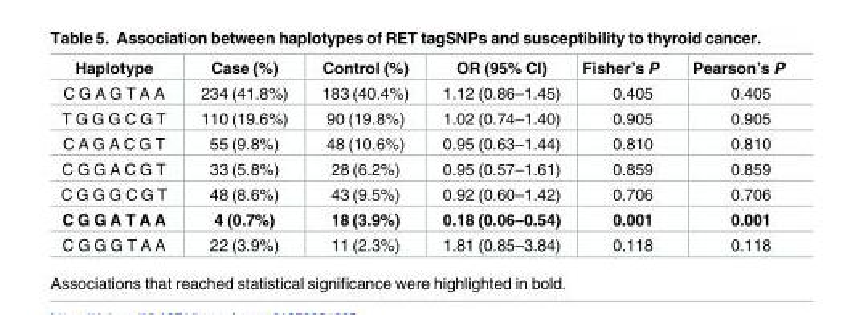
<table><thead><tr><td>Haplotype</td><td>Case (%)</td><td>Control (%)</td><td>OR (95% CI)</td><td>Fisher’s P</td><td>Pearson’s P</td></tr></thead><tbody><tr><td>C G A G T A A</td><td>234 (41.8%)</td><td>183 (40.4%)</td><td>1.12 (0.86–1.45)</td><td>0.405</td><td>0.405</td></tr><tr><td>T G G G C G T</td><td>110 (19.6%)</td><td>90 (19.8%)</td><td>1.02 (0.74–1.40)</td><td>0.905</td><td>0.905</td></tr><tr><td>C A G A C G T</td><td>55 (9.8%)</td><td>48 (10.6%)</td><td>0.95 (0.63–1.44)</td><td>0.810</td><td>0.810</td></tr><tr><td>C G G A C G T</td><td>33 (5.8%)</td><td>28 (6.2%)</td><td>0.95 (0.57–1.61)</td><td>0.859</td><td>0.859</td></tr><tr><td>C G G G C G T</td><td>48 (8.6%)</td><td>43 (9.5%)</td><td>0.92 (0.60–1.42)</td><td>0.706</td><td>0.706</td></tr><tr><td>C G G A T A A</td><td>4 (0.7%)</td><td>18 (3.9%)</td><td>0.18 (0.06–0.54)</td><td>0.001</td><td>0.001</td></tr><tr><td>C G G G T A A</td><td>22 (3.9%)</td><td>11 (2.3%)</td><td>1.81 (0.85–3.84)</td><td>0.118</td><td>0.118</td></tr></tbody></table>